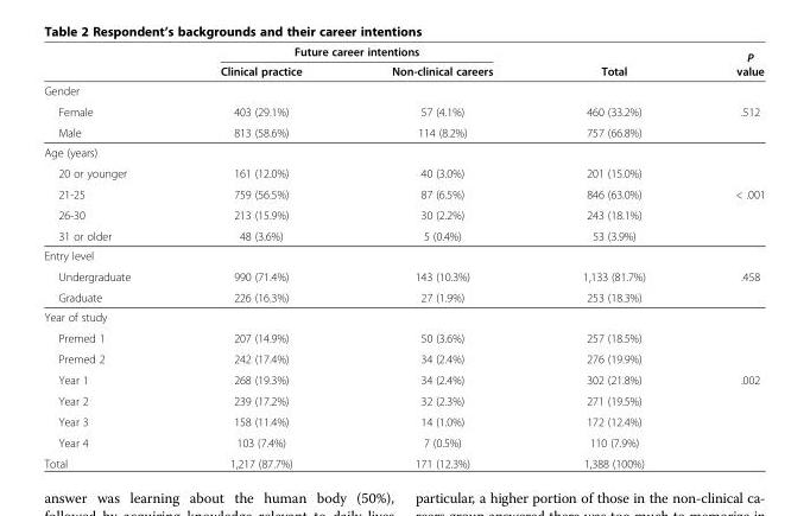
<table><thead><tr><td rowspan="2"></td><td colspan="2">Future career intentions</td><td rowspan="2">Total</td><td rowspan="2">P value</td></tr><tr><td>Clinical practice</td><td>Non-clinical careers</td></tr></thead><tbody><tr><td colspan="4">Gender</td><td rowspan="3">.512</td></tr><tr><td>Female</td><td>403 (29.1%)</td><td>57 (4.1%)</td><td>460 (33.2%)</td></tr><tr><td>Male</td><td>813 (58.6%)</td><td>114 (8.2%)</td><td>757 (66.8%)</td></tr><tr><td colspan="4">Age (years)</td><td rowspan="5">&lt; .001</td></tr><tr><td>20 or younger</td><td>161 (12.0%)</td><td>40 (3.0%)</td><td>201 (15.0%)</td></tr><tr><td>21-25</td><td>759 (56.5%)</td><td>87 (6.5%)</td><td>846 (63.0%)</td></tr><tr><td>26-30</td><td>213 (15.9%)</td><td>30 (2.2%)</td><td>243 (18.1%)</td></tr><tr><td>31 or older</td><td>48 (3.6%)</td><td>5 (0.4%)</td><td>53 (3.9%)</td></tr><tr><td colspan="4">Entry level</td><td rowspan="3">.458</td></tr><tr><td>Undergraduate</td><td>990 (71.4%)</td><td>143 (10.3%)</td><td>1,133 (81.7%)</td></tr><tr><td>Graduate</td><td>226 (16.3%)</td><td>27 (1.9%)</td><td>253 (18.3%)</td></tr><tr><td colspan="4">Year of study</td><td rowspan="7">.002</td></tr><tr><td>Premed 1</td><td>207 (14.9%)</td><td>50 (3.6%)</td><td>257 (18.5%)</td></tr><tr><td>Premed 2</td><td>242 (17.4%)</td><td>34 (2.4%)</td><td>276 (19.9%)</td></tr><tr><td>Year 1</td><td>268 (19.3%)</td><td>34 (2.4%)</td><td>302 (21.8%)</td></tr><tr><td>Year 2</td><td>239 (17.2%)</td><td>32 (2.3%)</td><td>271 (19.5%)</td></tr><tr><td>Year 3</td><td>158 (11.4%)</td><td>14 (1.0%)</td><td>172 (12.4%)</td></tr><tr><td>Year 4</td><td>103 (7.4%)</td><td>7 (0.5%)</td><td>110 (7.9%)</td></tr><tr><td>Total</td><td>1,217 (87.7%)</td><td>171 (12.3%)</td><td>1,388 (100%)</td><td></td></tr></tbody></table>